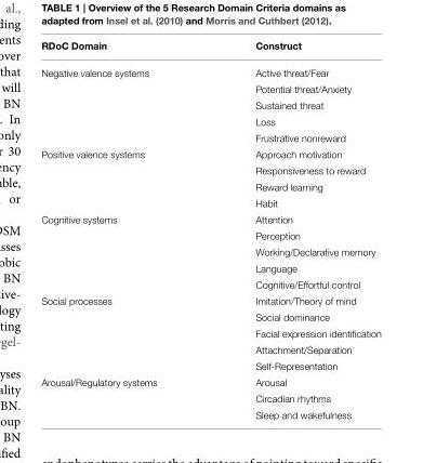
<table><thead><tr><td>RDoC Domain</td><td>Construct</td></tr></thead><tbody><tr><td rowspan="5">Negative valence systems</td><td>Active threat/Fear</td></tr><tr><td>Potential threat/Anxiety</td></tr><tr><td>Sustained threat</td></tr><tr><td>Loss</td></tr><tr><td>Frustrative nonreward</td></tr><tr><td rowspan="4">Positive valence systems</td><td>Approach motivation</td></tr><tr><td>Responsiveness to reward</td></tr><tr><td>Reward learning</td></tr><tr><td>Habit</td></tr><tr><td rowspan="5">Cognitive systems</td><td>Attention</td></tr><tr><td>Perception</td></tr><tr><td>Working/Declarative memory</td></tr><tr><td>Language</td></tr><tr><td>Cognitive/Effortful control</td></tr><tr><td rowspan="5">Social processes</td><td>Imitation/Theory of mind</td></tr><tr><td>Social dominance</td></tr><tr><td>Facial expression identification</td></tr><tr><td>Attachment/Separation</td></tr><tr><td>Self-Representation</td></tr><tr><td rowspan="3">Arousal/Regulatory systems</td><td>Arousal</td></tr><tr><td>Circadian rhythms</td></tr><tr><td>Sleep and wakefulness</td></tr></tbody></table>